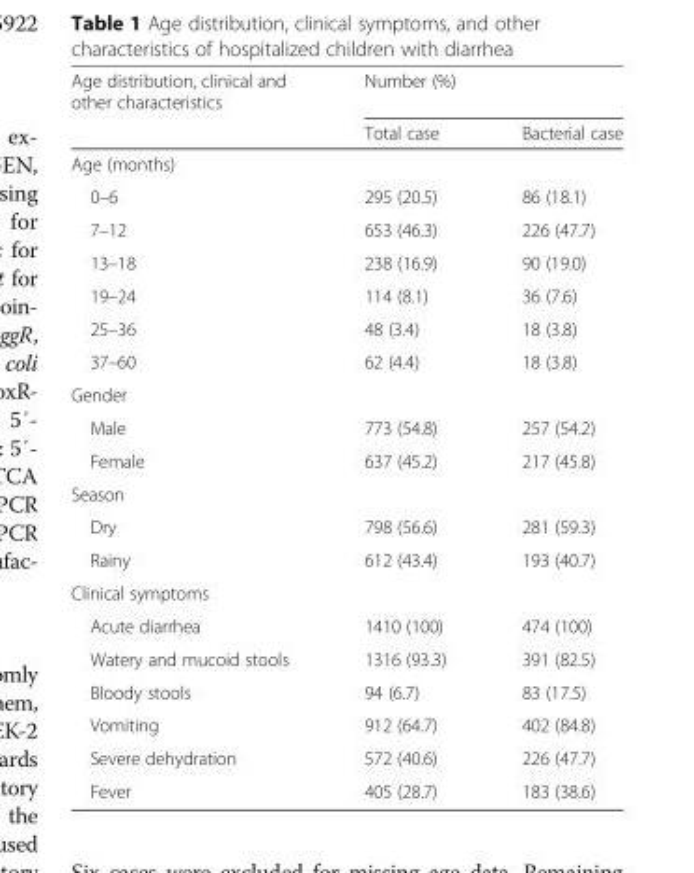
<table><thead><tr><td rowspan="2">Age distribution, clinical and other characteristics</td><td colspan="2">Number (%)</td></tr><tr><td>Total case</td><td>Bacterial case</td></tr></thead><tbody><tr><td colspan="3">Age (months)</td></tr><tr><td>0–6</td><td>295 (20.5)</td><td>86 (18.1)</td></tr><tr><td>7–12</td><td>653 (46.3)</td><td>226 (47.7)</td></tr><tr><td>13–18</td><td>238 (16.9)</td><td>90 (19.0)</td></tr><tr><td>19–24</td><td>114 (8.1)</td><td>36 (7.6)</td></tr><tr><td>25–36</td><td>48 (3.4)</td><td>18 (3.8)</td></tr><tr><td>37–60</td><td>62 (4.4)</td><td>18 (3.8)</td></tr><tr><td colspan="3">Gender</td></tr><tr><td>Male</td><td>773 (54.8)</td><td>257 (54.2)</td></tr><tr><td>Female</td><td>637 (45.2)</td><td>217 (45.8)</td></tr><tr><td colspan="3">Season</td></tr><tr><td>Dry</td><td>798 (56.6)</td><td>281 (59.3)</td></tr><tr><td>Rainy</td><td>612 (43.4)</td><td>193 (40.7)</td></tr><tr><td colspan="3">Clinical symptoms</td></tr><tr><td>Acute diarrhea</td><td>1410 (100)</td><td>474 (100)</td></tr><tr><td>Watery and mucoid stools</td><td>1316 (93.3)</td><td>391 (82.5)</td></tr><tr><td>Bloody stools</td><td>94 (6.7)</td><td>83 (17.5)</td></tr><tr><td>Vomiting</td><td>912 (64.7)</td><td>402 (84.8)</td></tr><tr><td>Severe dehydration</td><td>572 (40.6)</td><td>226 (47.7)</td></tr><tr><td>Fever</td><td>405 (28.7)</td><td>183 (38.6)</td></tr></tbody></table>